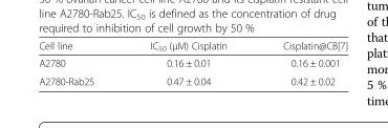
<table><thead><tr><td>Cell line</td><td>IC<sub>50</sub> (μM) Cisplatin</td><td>Cisplatin@CB[7]</td></tr></thead><tbody><tr><td>A2780</td><td>0.16 ± 0.01</td><td>0.16 ± 0.001</td></tr><tr><td>A2780-Rab25</td><td>0.47 ± 0.04</td><td>0.42 ± 0.02</td></tr></tbody></table>